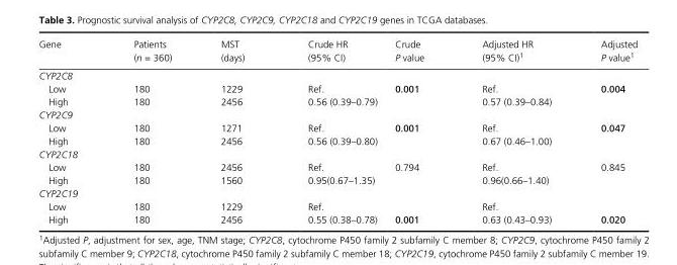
<table><thead><tr><td>Gene</td><td>Patients (n = 360)</td><td>MST (days)</td><td>Crude HR (95% CI)</td><td>Crude P value</td><td>Adjusted HR (95% CI)1</td><td>Adjusted P value1</td></tr></thead><tbody><tr><td colspan="7">CYP2C8</td></tr><tr><td>Low</td><td>180</td><td>1229</td><td>Ref.</td><td>0.001</td><td>Ref.</td><td>0.004</td></tr><tr><td>High</td><td>180</td><td>2456</td><td>0.56 (0.39–0.79)</td><td></td><td>0.57 (0.39–0.84)</td><td></td></tr><tr><td colspan="7">CYP2C9</td></tr><tr><td>Low</td><td>180</td><td>1271</td><td>Ref.</td><td>0.001</td><td>Ref.</td><td>0.047</td></tr><tr><td>High</td><td>180</td><td>2456</td><td>0.56 (0.39–0.80)</td><td></td><td>0.67 (0.46–1.00)</td><td></td></tr><tr><td colspan="7">CYP2C18</td></tr><tr><td>Low</td><td>180</td><td>2456</td><td>Ref.</td><td>0.794</td><td>Ref.</td><td>0.845</td></tr><tr><td>High</td><td>180</td><td>1560</td><td>0.95(0.67–1.35)</td><td></td><td>0.96(0.66–1.40)</td><td></td></tr><tr><td colspan="7">CYP2C19</td></tr><tr><td>Low</td><td>180</td><td>1229</td><td>Ref.</td><td></td><td>Ref.</td><td></td></tr><tr><td>High</td><td>180</td><td>2456</td><td>0.55 (0.38–0.78)</td><td>0.001</td><td>0.63 (0.43–0.93)</td><td>0.020</td></tr></tbody></table>